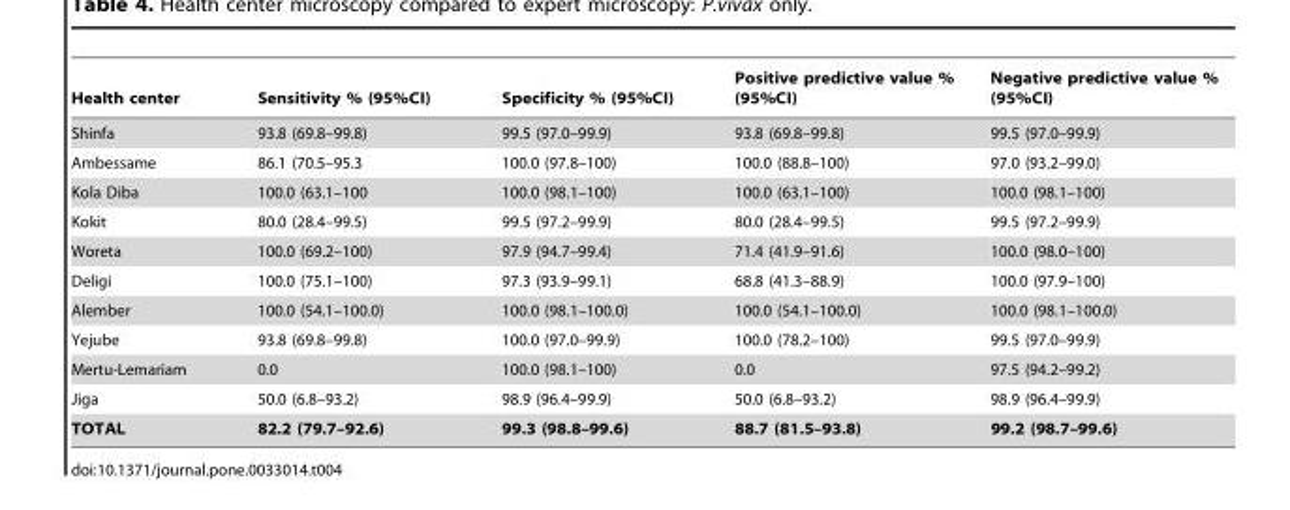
<table><thead><tr><td>Health center</td><td>Sensitivity % (95%CI)</td><td>Specificity % (95%CI)</td><td>Positive predictive value % (95%CI)</td><td>Negative predictive value % (95%CI)</td></tr></thead><tbody><tr><td>Shinfa</td><td>93.8 (69.8–99.8)</td><td>99.5 (97.0–99.9)</td><td>93.8 (69.8–99.8)</td><td>99.5 (97.0–99.9)</td></tr><tr><td>Ambessame</td><td>86.1 (70.5–95.3</td><td>100.0 (97.8–100)</td><td>100.0 (88.8–100)</td><td>97.0 (93.2–99.0)</td></tr><tr><td>Kola Diba</td><td>100.0 (63.1–100</td><td>100.0 (98.1–100)</td><td>100.0 (63.1–100)</td><td>100.0 (98.1–100)</td></tr><tr><td>Kokit</td><td>80.0 (28.4–99.5)</td><td>99.5 (97.2–99.9)</td><td>80.0 (28.4–99.5)</td><td>99.5 (97.2–99.9)</td></tr><tr><td>Woreta</td><td>100.0 (69.2–100)</td><td>97.9 (94.7–99.4)</td><td>71.4 (41.9–91.6)</td><td>100.0 (98.0–100)</td></tr><tr><td>Deligi</td><td>100.0 (75.1–100)</td><td>97.3 (93.9–99.1)</td><td>68.8 (41.3–88.9)</td><td>100.0 (97.9–100)</td></tr><tr><td>Alember</td><td>100.0 (54.1–100.0)</td><td>100.0 (98.1–100.0)</td><td>100.0 (54.1–100.0)</td><td>100.0 (98.1–100.0)</td></tr><tr><td>Yejube</td><td>93.8 (69.8–99.8)</td><td>100.0 (97.0–99.9)</td><td>100.0 (78.2–100)</td><td>99.5 (97.0–99.9)</td></tr><tr><td>Mertu-Lemariam</td><td>0.0</td><td>100.0 (98.1–100)</td><td>0.0</td><td>97.5 (94.2–99.2)</td></tr><tr><td>Jiga</td><td>50.0 (6.8–93.2)</td><td>98.9 (96.4–99.9)</td><td>50.0 (6.8–93.2)</td><td>98.9 (96.4–99.9)</td></tr><tr><td>TOTAL</td><td>82.2 (79.7–92.6)</td><td>99.3 (98.8–99.6)</td><td>88.7 (81.5–93.8)</td><td>99.2 (98.7–99.6)</td></tr></tbody></table>